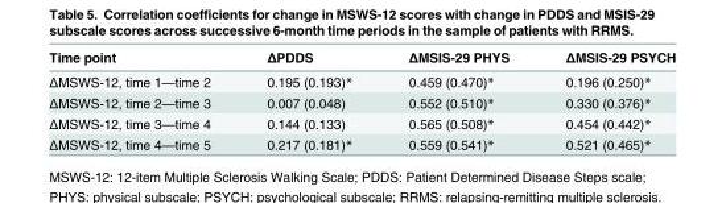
<table><thead><tr><td>Time point</td><td>ΔPDDS</td><td>ΔMSIS-29 PHYS</td><td>ΔMSIS-29 PSYCH</td></tr></thead><tbody><tr><td>ΔMSWS-12, time 1—time 2</td><td>0.195 (0.193)*</td><td>0.459 (0.470)*</td><td>0.196 (0.250)*</td></tr><tr><td>ΔMSWS-12, time 2—time 3</td><td>0.007 (0.048)</td><td>0.552 (0.510)*</td><td>0.330 (0.376)*</td></tr><tr><td>ΔMSWS-12, time 3—time 4</td><td>0.144 (0.133)</td><td>0.565 (0.508)*</td><td>0.454 (0.442)*</td></tr><tr><td>ΔMSWS-12, time 4—time 5</td><td>0.217 (0.181)*</td><td>0.559 (0.541)*</td><td>0.521 (0.465)*</td></tr></tbody></table>